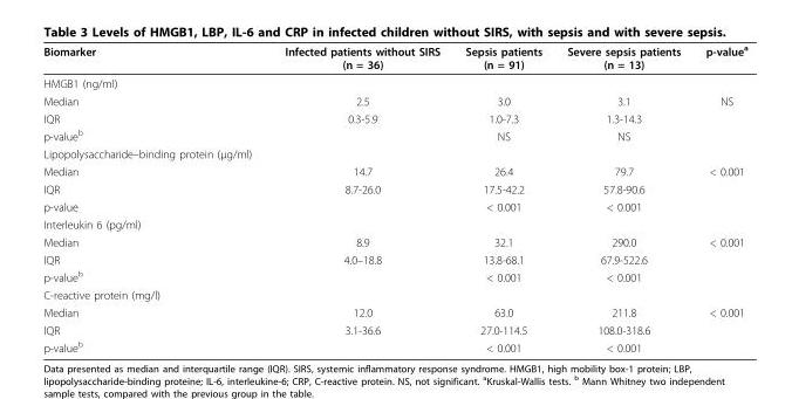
<table><thead><tr><td>Biomarker</td><td>Infected patients without SIRS (n = 36)</td><td>Sepsis patients (n = 91)</td><td>Severe sepsis patients (n = 13)</td><td>p-value<sup>a</sup></td></tr></thead><tbody><tr><td colspan="5">HMGB1 (ng/ml)</td></tr><tr><td>Median</td><td>2.5</td><td>3.0</td><td>3.1</td><td>NS</td></tr><tr><td>IQR</td><td>0.3-5.9</td><td>1.0-7.3</td><td>1.3-14.3</td><td></td></tr><tr><td>p-value<sup>b</sup></td><td></td><td>NS</td><td>NS</td><td></td></tr><tr><td colspan="5">Lipopolysaccharide–binding protein (μg/ml)</td></tr><tr><td>Median</td><td>14.7</td><td>26.4</td><td>79.7</td><td>&lt; 0.001</td></tr><tr><td>IQR</td><td>8.7-26.0</td><td>17.5-42.2</td><td>57.8-90.6</td><td></td></tr><tr><td>p-value</td><td></td><td>&lt; 0.001</td><td>&lt; 0.001</td><td></td></tr><tr><td colspan="5">Interleukin 6 (pg/ml)</td></tr><tr><td>Median</td><td>8.9</td><td>32.1</td><td>290.0</td><td>&lt; 0.001</td></tr><tr><td>IQR</td><td>4.0–18.8</td><td>13.8-68.1</td><td>67.9-522.6</td><td></td></tr><tr><td>p-value<sup>b</sup></td><td></td><td>&lt; 0.001</td><td>&lt; 0.001</td><td></td></tr><tr><td colspan="5">C-reactive protein (mg/l)</td></tr><tr><td>Median</td><td>12.0</td><td>63.0</td><td>211.8</td><td>&lt; 0.001</td></tr><tr><td>IQR</td><td>3.1-36.6</td><td>27.0-114.5</td><td>108.0-318.6</td><td></td></tr><tr><td>p-value<sup>b</sup></td><td></td><td>&lt; 0.001</td><td>&lt; 0.001</td><td></td></tr></tbody></table>